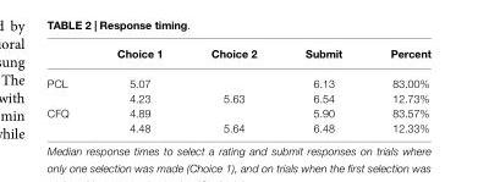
<table><thead><tr><td></td><td>Choice 1</td><td>Choice 2</td><td>Submit</td><td>Percent</td></tr></thead><tbody><tr><td rowspan="2">PCL</td><td>5.07</td><td></td><td>6.13</td><td>83.00%</td></tr><tr><td>4.23</td><td>5.63</td><td>6.54</td><td>12.73%</td></tr><tr><td rowspan="2">CFQ</td><td>4.89</td><td></td><td>5.90</td><td>83.57%</td></tr><tr><td>4.48</td><td>5.64</td><td>6.48</td><td>12.33%</td></tr></tbody></table>